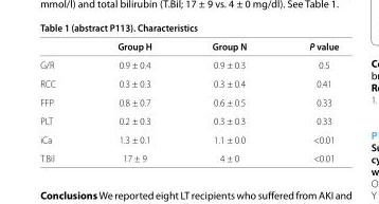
<table><thead><tr><td></td><td>Group H</td><td>Group N</td><td>P value</td></tr></thead><tbody><tr><td>G/R</td><td>0.9 ± 0.4</td><td>0.9 ± 0.3</td><td>0.5</td></tr><tr><td>RCC</td><td>0.3 ± 0.3</td><td>0.3 ± 0.4</td><td>0.41</td></tr><tr><td>FFP</td><td>0.8 ± 0.7</td><td>0.6 ± 0.5</td><td>0.33</td></tr><tr><td>PLT</td><td>0.2 ± 0.3</td><td>0.3 ± 0.3</td><td>0.33</td></tr><tr><td>iCa</td><td>1.3 ± 0.1</td><td>1.1 ± 0.0</td><td>&lt;0.01</td></tr><tr><td>T.Bil</td><td>17 ± 9</td><td>4 ± 0</td><td>&lt;0.01</td></tr></tbody></table>